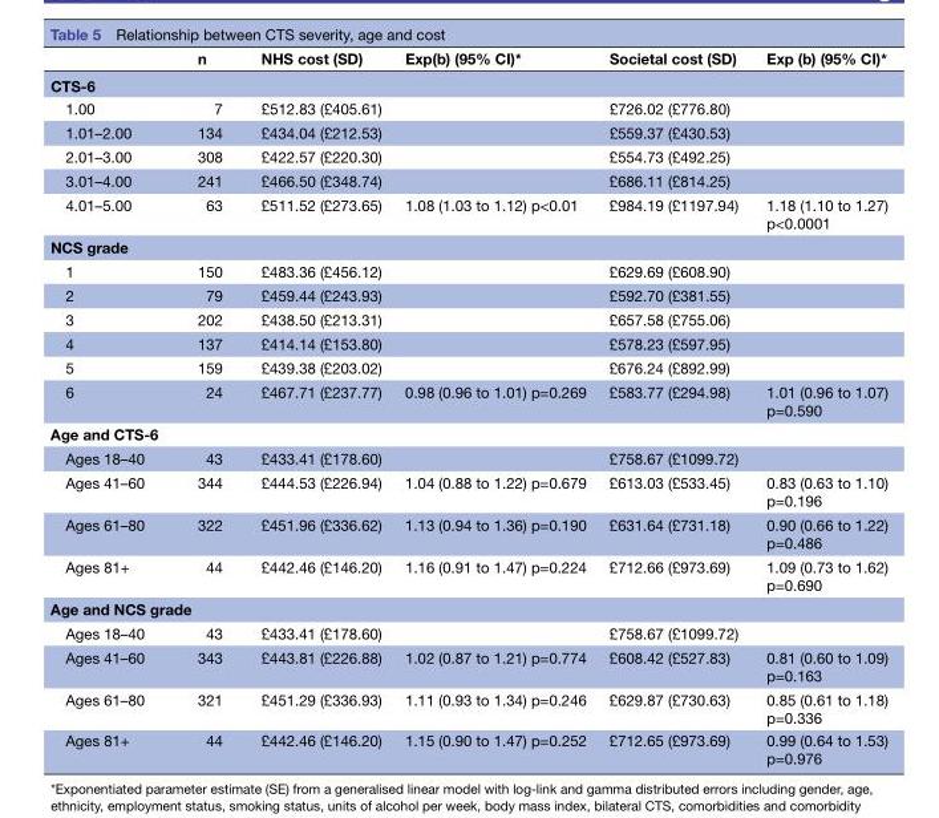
<table><thead><tr><td></td><td>n</td><td>NHS cost (SD)</td><td>Exp(b) (95% CI)*</td><td>Societal cost (SD)</td><td>Exp (b) (95% CI)*</td></tr></thead><tbody><tr><td colspan="6">CTS-6</td></tr><tr><td>1.00</td><td>7</td><td>£512.83 (£405.61)</td><td></td><td>£726.02 (£776.80)</td><td></td></tr><tr><td>1.01–2.00</td><td>134</td><td>£434.04 (£212.53)</td><td></td><td>£559.37 (£430.53)</td><td></td></tr><tr><td>2.01–3.00</td><td>308</td><td>£422.57 (£220.30)</td><td></td><td>£554.73 (£492.25)</td><td></td></tr><tr><td>3.01–4.00</td><td>241</td><td>£466.50 (£348.74)</td><td></td><td>£686.11 (£814.25)</td><td></td></tr><tr><td>4.01–5.00</td><td>63</td><td>£511.52 (£273.65)</td><td>1.08 (1.03 to 1.12) p&lt;0.01</td><td>£984.19 (£1197.94)</td><td>1.18 (1.10 to 1.27) p&lt;0.0001</td></tr><tr><td colspan="6">NCS grade</td></tr><tr><td>1</td><td>150</td><td>£483.36 (£456.12)</td><td></td><td>£629.69 (£608.90)</td><td></td></tr><tr><td>2</td><td>79</td><td>£459.44 (£243.93)</td><td></td><td>£592.70 (£381.55)</td><td></td></tr><tr><td>3</td><td>202</td><td>£438.50 (£213.31)</td><td></td><td>£657.58 (£755.06)</td><td></td></tr><tr><td>4</td><td>137</td><td>£414.14 (£153.80)</td><td></td><td>£578.23 (£597.95)</td><td></td></tr><tr><td>5</td><td>159</td><td>£439.38 (£203.02)</td><td></td><td>£676.24 (£892.99)</td><td></td></tr><tr><td>6</td><td>24</td><td>£467.71 (£237.77)</td><td>0.98 (0.96 to 1.01) p=0.269</td><td>£583.77 (£294.98)</td><td>1.01 (0.96 to 1.07) p=0.590</td></tr><tr><td colspan="6">Age and CTS-6</td></tr><tr><td>Ages 18–40</td><td>43</td><td>£433.41 (£178.60)</td><td></td><td>£758.67 (£1099.72)</td><td></td></tr><tr><td>Ages 41–60</td><td>344</td><td>£444.53 (£226.94)</td><td>1.04 (0.88 to 1.22) p=0.679</td><td>£613.03 (£533.45)</td><td>0.83 (0.63 to 1.10) p=0.196</td></tr><tr><td>Ages 61–80</td><td>322</td><td>£451.96 (£336.62)</td><td>1.13 (0.94 to 1.36) p=0.190</td><td>£631.64 (£731.18)</td><td>0.90 (0.66 to 1.22) p=0.486</td></tr><tr><td>Ages 81+</td><td>44</td><td>£442.46 (£146.20)</td><td>1.16 (0.91 to 1.47) p=0.224</td><td>£712.66 (£973.69)</td><td>1.09 (0.73 to 1.62) p=0.690</td></tr><tr><td colspan="6">Age and NCS grade</td></tr><tr><td>Ages 18–40</td><td>43</td><td>£433.41 (£178.60)</td><td></td><td>£758.67 (£1099.72)</td><td></td></tr><tr><td>Ages 41–60</td><td>343</td><td>£443.81 (£226.88)</td><td>1.02 (0.87 to 1.21) p=0.774</td><td>£608.42 (£527.83)</td><td>0.81 (0.60 to 1.09) p=0.163</td></tr><tr><td>Ages 61–80</td><td>321</td><td>£451.29 (£336.93)</td><td>1.11 (0.93 to 1.34) p=0.246</td><td>£629.87 (£730.63)</td><td>0.85 (0.61 to 1.18) p=0.336</td></tr><tr><td>Ages 81+</td><td>44</td><td>£442.46 (£146.20)</td><td>1.15 (0.90 to 1.47) p=0.252</td><td>£712.65 (£973.69)</td><td>0.99 (0.64 to 1.53) p=0.976</td></tr></tbody></table>